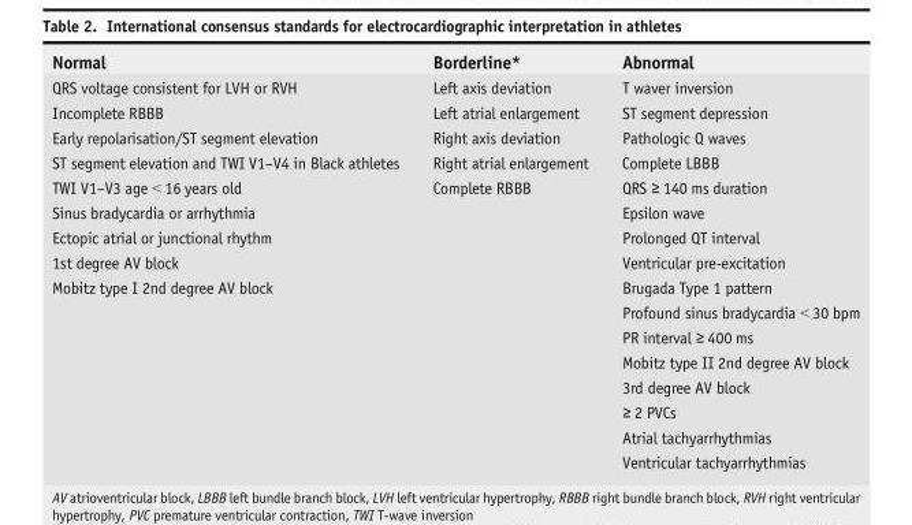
<table><thead><tr><td>Normal</td><td>Borderline*</td><td>Abnormal</td></tr></thead><tbody><tr><td>QRS voltage consistent for LVH or RVH</td><td>Left axis deviation</td><td>T waver inversion</td></tr><tr><td>Incomplete RBBB</td><td>Left atrial enlargement</td><td>ST segment depression</td></tr><tr><td>Early repolarisation/ST segment elevation</td><td>Right axis deviation</td><td>Pathologic Q waves</td></tr><tr><td>ST segment elevation and TWI V1–V4 in Black athletes</td><td>Right atrial enlargement</td><td>Complete LBBB</td></tr><tr><td>TWI V1–V3 age &lt; 16 years old</td><td>Complete RBBB</td><td>QRS ≥ 140 ms duration</td></tr><tr><td>Sinus bradycardia or arrhythmia</td><td></td><td>Epsilon wave</td></tr><tr><td>Ectopic atrial or junctional rhythm</td><td></td><td>Prolonged QT interval</td></tr><tr><td>1st degree AV block</td><td></td><td>Ventricular pre-excitation</td></tr><tr><td rowspan="8">Mobitz type I 2nd degree AV block</td><td></td><td>Brugada Type 1 pattern</td></tr><tr><td></td><td>Profound sinus bradycardia &lt; 30 bpm</td></tr><tr><td></td><td>PR interval ≥ 400 ms</td></tr><tr><td></td><td>Mobitz type II 2nd degree AV block</td></tr><tr><td></td><td>3rd degree AV block</td></tr><tr><td></td><td>≥ 2 PVCs</td></tr><tr><td></td><td>Atrial tachyarrhythmias</td></tr><tr><td></td><td>Ventricular tachyarrhythmias</td></tr></tbody></table>